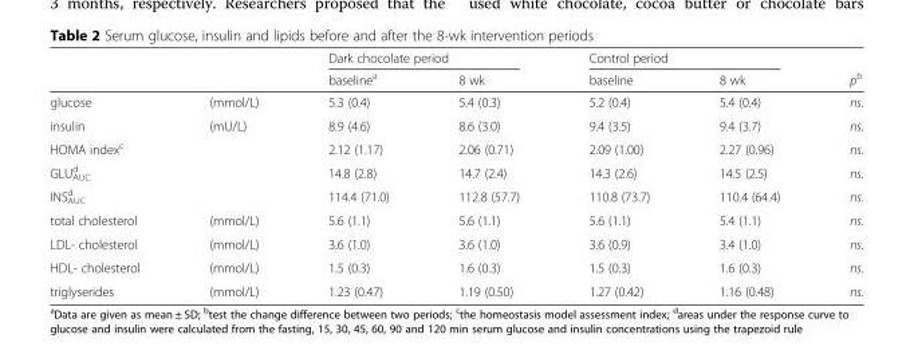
<table><thead><tr><td rowspan="2"></td><td rowspan="2"></td><td colspan="2">Dark chocolate period</td><td colspan="2">Control period</td><td rowspan="2">p<sup>b</sup></td></tr><tr><td>baseline<sup>a</sup></td><td>8 wk</td><td>baseline</td><td>8 wk</td></tr></thead><tbody><tr><td>glucose</td><td>(mmol/L)</td><td>5.3 (0.4)</td><td>5.4 (0.3)</td><td>5.2 (0.4)</td><td>5.4 (0.4)</td><td>ns.</td></tr><tr><td>insulin</td><td>(mU/L)</td><td>8.9 (4.6)</td><td>8.6 (3.0)</td><td>9.4 (3.5)</td><td>9.4 (3.7)</td><td>ns.</td></tr><tr><td>HOMA index<sup>c</sup></td><td></td><td>2.12 (1.17)</td><td>2.06 (0.71)</td><td>2.09 (1.00)</td><td>2.27 (0.96)</td><td>ns.</td></tr><tr><td>GLU<sub>AUC</sub> <sup>d</sup></td><td></td><td>14.8 (2.8)</td><td>14.7 (2.4)</td><td>14.3 (2.6)</td><td>14.5 (2.5)</td><td>ns.</td></tr><tr><td>INS<sub>AUC</sub> <sup>d</sup></td><td></td><td>114.4 (71.0)</td><td>112.8 (57.7)</td><td>110.8 (73.7)</td><td>110.4 (64.4)</td><td>ns.</td></tr><tr><td>total cholesterol</td><td>(mmol/L)</td><td>5.6 (1.1)</td><td>5.6 (1.1)</td><td>5.6 (1.1)</td><td>5.4 (1.1)</td><td>ns.</td></tr><tr><td>LDL- cholesterol</td><td>(mmol/L)</td><td>3.6 (1.0)</td><td>3.6 (1.0)</td><td>3.6 (0.9)</td><td>3.4 (1.0)</td><td>ns.</td></tr><tr><td>HDL- cholesterol</td><td>(mmol/L)</td><td>1.5 (0.3)</td><td>1.6 (0.3)</td><td>1.5 (0.3)</td><td>1.6 (0.3)</td><td>ns.</td></tr><tr><td>triglyserides</td><td>(mmol/L)</td><td>1.23 (0.47)</td><td>1.19 (0.50)</td><td>1.27 (0.42)</td><td>1.16 (0.48)</td><td>ns.</td></tr></tbody></table>